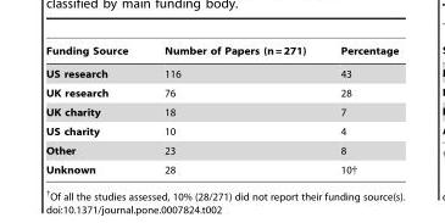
<table><thead><tr><td>Funding Source</td><td>Number of Papers (n = 271)</td><td>Percentage</td></tr></thead><tbody><tr><td>US research</td><td>116</td><td>43</td></tr><tr><td>UK research</td><td>76</td><td>28</td></tr><tr><td>UK charity</td><td>18</td><td>7</td></tr><tr><td>US charity</td><td>10</td><td>4</td></tr><tr><td>Other</td><td>23</td><td>8</td></tr><tr><td>Unknown</td><td>28</td><td>10†</td></tr></tbody></table>